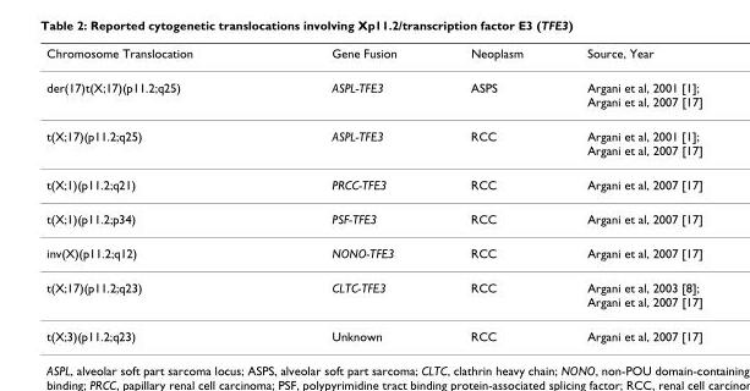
<table><thead><tr><td>Chromosome Translocation</td><td>Gene Fusion</td><td>Neoplasm</td><td>Source, Year</td></tr></thead><tbody><tr><td>der(17)t(X;17)(p11.2;q25)</td><td>ASPL-TFE3</td><td>ASPS</td><td>Argani et al, 2001 [1]; Argani et al, 2007 [17]</td></tr><tr><td>t(X;17)(p11.2;q25)</td><td>ASPL-TFE3</td><td>RCC</td><td>Argani et al, 2001 [1]; Argani et al, 2007 [17]</td></tr><tr><td>t(X;1)(p11.2;q21)</td><td>PRCC-TFE3</td><td>RCC</td><td>Argani et al, 2007 [17]</td></tr><tr><td>t(X;1)(p11.2;p34)</td><td>PSF-TFE3</td><td>RCC</td><td>Argani et al, 2007 [17]</td></tr><tr><td>inv(X)(p11.2;q12)</td><td>NONO-TFE3</td><td>RCC</td><td>Argani et al, 2007 [17]</td></tr><tr><td>t(X;17)(p11.2;q23)</td><td>CLTC-TFE3</td><td>RCC</td><td>Argani et al, 2003 [8]; Argani et al, 2007 [17]</td></tr><tr><td>t(X;3)(p11.2;q23)</td><td>Unknown</td><td>RCC</td><td>Argani et al, 2007 [17]</td></tr></tbody></table>